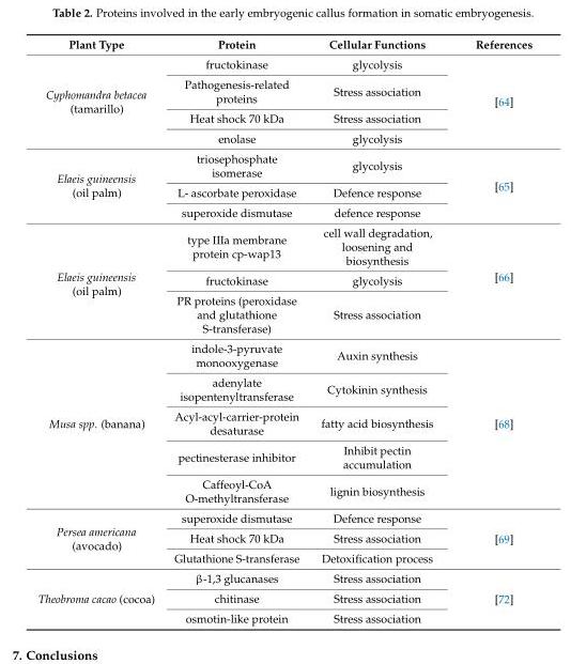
<table><thead><tr><td>Plant Type</td><td>Protein</td><td>Cellular Functions</td><td>References</td></tr></thead><tbody><tr><td rowspan="4">Cyphomandra betacea (tamarillo)</td><td>fructokinase</td><td>glycolysis</td><td rowspan="4">[64]</td></tr><tr><td>Pathogenesis-related proteins</td><td>Stress association</td></tr><tr><td>Heat shock 70 kDa</td><td>Stress association</td></tr><tr><td>enolase</td><td>glycolysis</td></tr><tr><td rowspan="3">Elaeis guineensis (oil palm)</td><td>triosephosphate isomerase</td><td>glycolysis</td><td rowspan="3">[65]</td></tr><tr><td>L- ascorbate peroxidase</td><td>Defence response</td></tr><tr><td>superoxide dismutase</td><td>defence response</td></tr><tr><td rowspan="3">Elaeis guineensis (oil palm)</td><td>type IIIa membrane protein cp-wap13</td><td>cell wall degradation, loosening and biosynthesis</td><td rowspan="3">[66]</td></tr><tr><td>fructokinase</td><td>glycolysis</td></tr><tr><td>PR proteins (peroxidase and glutathione S-transferase)</td><td>Stress association</td></tr><tr><td rowspan="5">Musa spp. (banana)</td><td>indole-3-pyruvate monooxygenase</td><td>Auxin synthesis</td><td rowspan="5">[68]</td></tr><tr><td>adenylate isopentenyltransferase</td><td>Cytokinin synthesis</td></tr><tr><td>Acyl-acyl-carrier-protein desaturase</td><td>fatty acid biosynthesis</td></tr><tr><td>pectinesterase inhibitor</td><td>Inhibit pectin accumulation</td></tr><tr><td>Caffeoyl-CoA O-methyltransferase</td><td>lignin biosynthesis</td></tr><tr><td rowspan="3">Persea americana (avocado)</td><td>superoxide dismutase</td><td>Defence response</td><td rowspan="3">[69]</td></tr><tr><td>Heat shock 70 kDa</td><td>Stress association</td></tr><tr><td>Glutathione S-transferase</td><td>Detoxification process</td></tr><tr><td rowspan="3">Theobroma cacao (cocoa)</td><td>β-1,3 glucanases</td><td>Stress association</td><td rowspan="3">[72]</td></tr><tr><td>chitinase</td><td>Stress association</td></tr><tr><td>osmotin-like protein</td><td>Stress association</td></tr></tbody></table>